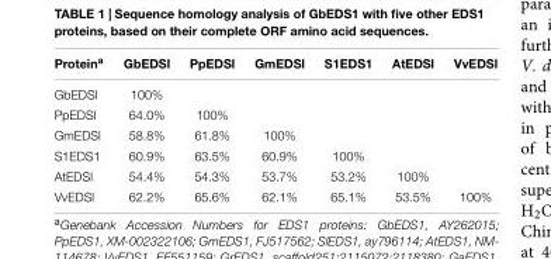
<table><thead><tr><td>Protein<sup>a</sup></td><td>GbEDSl</td><td>PpEDSl</td><td>GmEDSl</td><td>S1EDS1</td><td>AtEDSl</td><td>VvEDSl</td></tr></thead><tbody><tr><td>GbEDSl</td><td>100%</td><td></td><td></td><td></td><td></td><td></td></tr><tr><td>PpEDSl</td><td>64.0%</td><td>100%</td><td></td><td></td><td></td><td></td></tr><tr><td>GmEDSl</td><td>58.8%</td><td>61.8%</td><td>100%</td><td></td><td></td><td></td></tr><tr><td>S1EDS1</td><td>60.9%</td><td>63.5%</td><td>60.9%</td><td>100%</td><td></td><td></td></tr><tr><td>AtEDSl</td><td>54.4%</td><td>54.3%</td><td>53.7%</td><td>53.2%</td><td>100%</td><td></td></tr><tr><td>VvEDSl</td><td>62.2%</td><td>65.6%</td><td>62.1%</td><td>65.1%</td><td>53.5%</td><td>100%</td></tr></tbody></table>